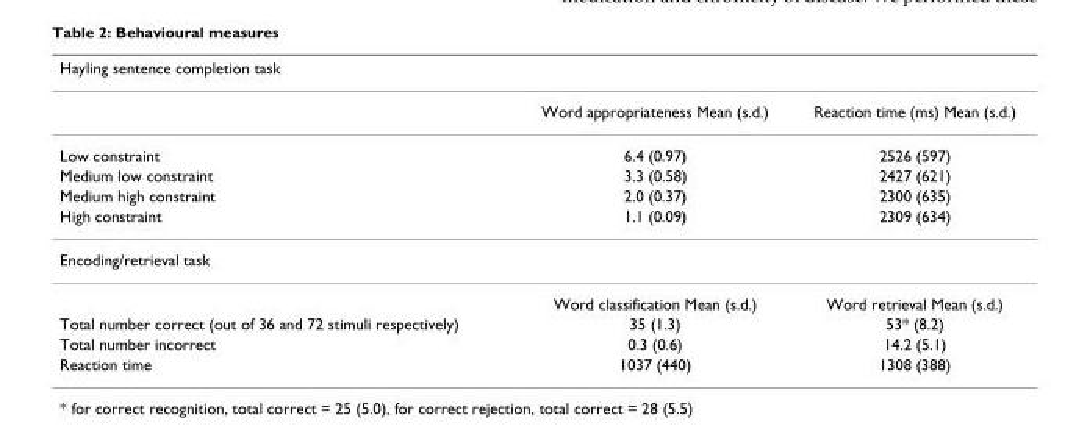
<table><thead><tr><td colspan="3">Hayling sentence completion task</td></tr><tr><td></td><td>Word appropriateness Mean (s.d.)</td><td>Reaction time (ms) Mean (s.d.)</td></tr></thead><tbody><tr><td>Low constraint</td><td>6.4 (0.97)</td><td>2526 (597)</td></tr><tr><td>Medium low constraint</td><td>3.3 (0.58)</td><td>2427 (621)</td></tr><tr><td>Medium high constraint</td><td>2.0 (0.37)</td><td>2300 (635)</td></tr><tr><td>High constraint</td><td>1.1 (0.09)</td><td>2309 (634)</td></tr><tr><td colspan="3">Encoding/retrieval task</td></tr><tr><td></td><td>Word classification Mean (s.d.)</td><td>Word retrieval Mean (s.d.)</td></tr><tr><td>Total number correct (out of 36 and 72 stimuli respectively)</td><td>35 (1.3)</td><td>53* (8.2)</td></tr><tr><td>Total number incorrect</td><td>0.3 (0.6)</td><td>14.2 (5.1)</td></tr><tr><td>Reaction time</td><td>1037 (440)</td><td>1308 (388)</td></tr></tbody></table>